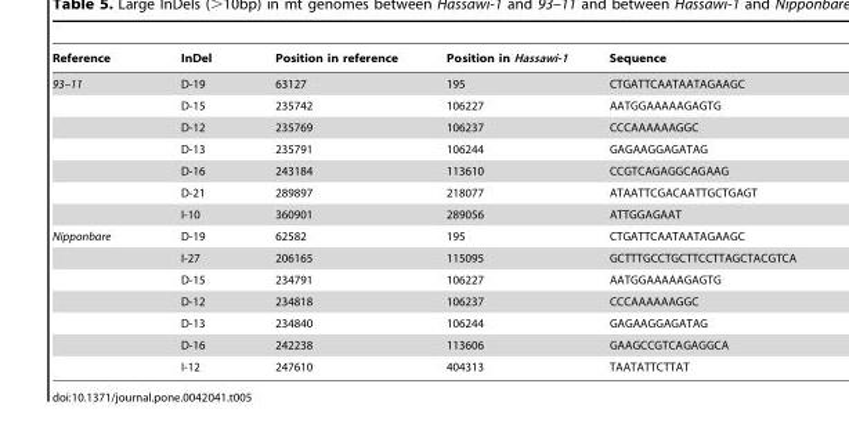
<table><thead><tr><td>Reference</td><td>InDel</td><td>Position in reference</td><td>Position in Hassawi-1</td><td>Sequence</td></tr></thead><tbody><tr><td rowspan="7">93–11</td><td>D-19</td><td>63127</td><td>195</td><td>CTGATTCAATAATAGAAGC</td></tr><tr><td>D-15</td><td>235742</td><td>106227</td><td>AATGGAAAAAGAGTG</td></tr><tr><td>D-12</td><td>235769</td><td>106237</td><td>CCCAAAAAAGGC</td></tr><tr><td>D-13</td><td>235791</td><td>106244</td><td>GAGAAGGAGATAG</td></tr><tr><td>D-16</td><td>243184</td><td>113610</td><td>CCGTCAGAGGCAGAAG</td></tr><tr><td>D-21</td><td>289897</td><td>218077</td><td>ATAATTCGACAATTGCTGAGT</td></tr><tr><td>I-10</td><td>360901</td><td>289056</td><td>ATTGGAGAAT</td></tr><tr><td rowspan="7">Nipponbare</td><td>D-19</td><td>62582</td><td>195</td><td>CTGATTCAATAATAGAAGC</td></tr><tr><td>I-27</td><td>206165</td><td>115095</td><td>GCTTTGCCTGCTTCCTTAGCTACGTCA</td></tr><tr><td>D-15</td><td>234791</td><td>106227</td><td>AATGGAAAAAGAGTG</td></tr><tr><td>D-12</td><td>234818</td><td>106237</td><td>CCCAAAAAAGGC</td></tr><tr><td>D-13</td><td>234840</td><td>106244</td><td>GAGAAGGAGATAG</td></tr><tr><td>D-16</td><td>242238</td><td>113606</td><td>GAAGCCGTCAGAGGCA</td></tr><tr><td>I-12</td><td>247610</td><td>404313</td><td>TAATATTCTTAT</td></tr></tbody></table>